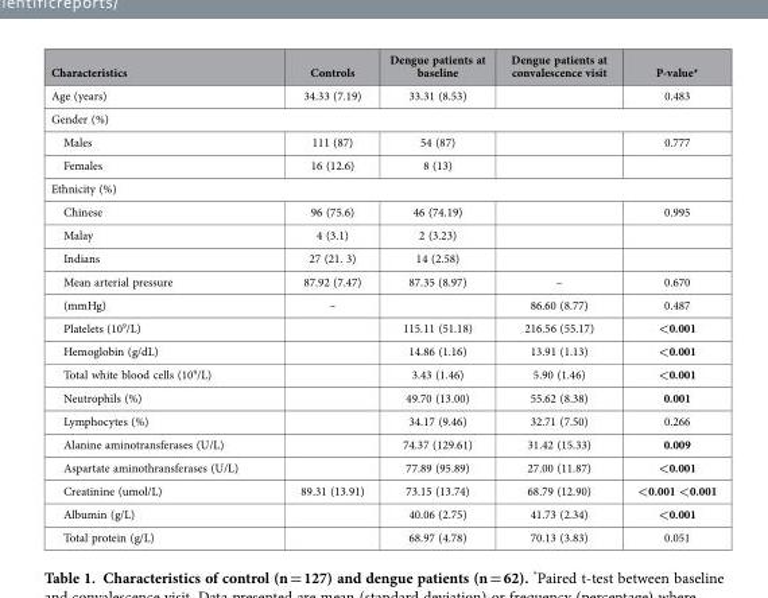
<table><thead><tr><td>Characteristics</td><td>Controls</td><td>Dengue patients at baseline</td><td>Dengue patients at convalescence visit</td><td>P-value*</td></tr></thead><tbody><tr><td>Age (years)</td><td>34.33 (7.19)</td><td>33.31 (8.53)</td><td></td><td>0.483</td></tr><tr><td colspan="5">Gender (%)</td></tr><tr><td>Males</td><td>111 (87)</td><td>54 (87)</td><td></td><td>0.777</td></tr><tr><td>Females</td><td>16 (12.6)</td><td>8 (13)</td><td></td><td></td></tr><tr><td colspan="5">Ethnicity (%)</td></tr><tr><td>Chinese</td><td>96 (75.6)</td><td>46 (74.19)</td><td></td><td>0.995</td></tr><tr><td>Malay</td><td>4 (3.1)</td><td>2 (3.23)</td><td></td><td></td></tr><tr><td>Indians</td><td>27 (21. 3)</td><td>14 (2.58)</td><td></td><td></td></tr><tr><td>Mean arterial pressure</td><td>87.92 (7.47)</td><td>87.35 (8.97)</td><td>–</td><td>0.670</td></tr><tr><td>(mmHg)</td><td>–</td><td></td><td>86.60 (8.77)</td><td>0.487</td></tr><tr><td>Platelets (10<sup>9</sup>/L)</td><td></td><td>115.11 (51.18)</td><td>216.56 (55.17)</td><td>&lt;0.001</td></tr><tr><td>Hemoglobin (g/dL)</td><td></td><td>14.86 (1.16)</td><td>13.91 (1.13)</td><td>&lt;0.001</td></tr><tr><td>Total white blood cells (10<sup>9</sup>/L)</td><td></td><td>3.43 (1.46)</td><td>5.90 (1.46)</td><td>&lt;0.001</td></tr><tr><td>Neutrophils (%)</td><td></td><td>49.70 (13.00)</td><td>55.62 (8.38)</td><td>0.001</td></tr><tr><td>Lymphocytes (%)</td><td></td><td>34.17 (9.46)</td><td>32.71 (7.50)</td><td>0.266</td></tr><tr><td>Alanine aminotransferases (U/L)</td><td></td><td>74.37 (129.61)</td><td>31.42 (15.33)</td><td>0.009</td></tr><tr><td>Aspartate aminothransferases (U/L)</td><td></td><td>77.89 (95.89)</td><td>27.00 (11.87)</td><td>&lt;0.001</td></tr><tr><td>Creatinine (umol/L)</td><td>89.31 (13.91)</td><td>73.15 (13.74)</td><td>68.79 (12.90)</td><td>&lt;0.001 &lt;0.001</td></tr><tr><td>Albumin (g/L)</td><td></td><td>40.06 (2.75)</td><td>41.73 (2.34)</td><td>&lt;0.001</td></tr><tr><td>Total protein (g/L)</td><td></td><td>68.97 (4.78)</td><td>70.13 (3.83)</td><td>0.051</td></tr></tbody></table>